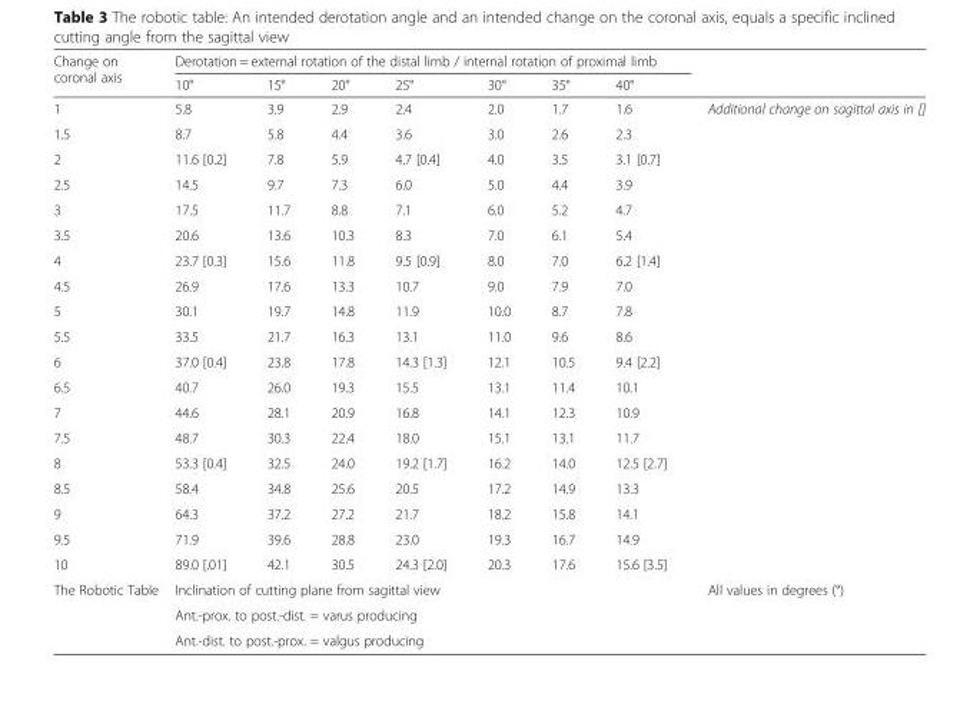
<table><thead><tr><td rowspan="2">Change on coronal axis</td><td colspan="7">Derotation = external rotation of the distal limb / internal rotation of proximal limb</td><td rowspan="2"></td></tr><tr><td>10°</td><td>15°</td><td>20°</td><td>25°</td><td>30°</td><td>35°</td><td>40°</td></tr></thead><tbody><tr><td>1</td><td>5.8</td><td>3.9</td><td>2.9</td><td>2.4</td><td>2.0</td><td>1.7</td><td>1.6</td><td rowspan="19">Additional change on sagittal axis in []</td></tr><tr><td>1.5</td><td>8.7</td><td>5.8</td><td>4.4</td><td>3.6</td><td>3.0</td><td>2.6</td><td>2.3</td></tr><tr><td>2</td><td>11.6 [0.2]</td><td>7.8</td><td>5.9</td><td>4.7 [0.4]</td><td>4.0</td><td>3.5</td><td>3.1 [0.7]</td></tr><tr><td>2.5</td><td>14.5</td><td>9.7</td><td>7.3</td><td>6.0</td><td>5.0</td><td>4.4</td><td>3.9</td></tr><tr><td>3</td><td>17.5</td><td>11.7</td><td>8.8</td><td>7.1</td><td>6.0</td><td>5.2</td><td>4.7</td></tr><tr><td>3.5</td><td>20.6</td><td>13.6</td><td>10.3</td><td>8.3</td><td>7.0</td><td>6.1</td><td>5.4</td></tr><tr><td>4</td><td>23.7 [0.3]</td><td>15.6</td><td>11.8</td><td>9.5 [0.9]</td><td>8.0</td><td>7.0</td><td>6.2 [1.4]</td></tr><tr><td>4.5</td><td>26.9</td><td>17.6</td><td>13.3</td><td>10.7</td><td>9.0</td><td>7.9</td><td>7.0</td></tr><tr><td>5</td><td>30.1</td><td>19.7</td><td>14.8</td><td>11.9</td><td>10.0</td><td>8.7</td><td>7.8</td></tr><tr><td>5.5</td><td>33.5</td><td>21.7</td><td>16.3</td><td>13.1</td><td>11.0</td><td>9.6</td><td>8.6</td></tr><tr><td>6</td><td>37.0 [0.4]</td><td>23.8</td><td>17.8</td><td>14.3 [1.3]</td><td>12.1</td><td>10.5</td><td>9.4 [2.2]</td></tr><tr><td>6.5</td><td>40.7</td><td>26.0</td><td>19.3</td><td>15.5</td><td>13.1</td><td>11.4</td><td>10.1</td></tr><tr><td>7</td><td>44.6</td><td>28.1</td><td>20.9</td><td>16.8</td><td>14.1</td><td>12.3</td><td>10.9</td></tr><tr><td>7.5</td><td>48.7</td><td>30.3</td><td>22.4</td><td>18.0</td><td>15.1</td><td>13.1</td><td>11.7</td></tr><tr><td>8</td><td>53.3 [0.4]</td><td>32.5</td><td>24.0</td><td>19.2 [1.7]</td><td>16.2</td><td>14.0</td><td>12.5 [2.7]</td></tr><tr><td>8.5</td><td>58.4</td><td>34.8</td><td>25.6</td><td>20.5</td><td>17.2</td><td>14.9</td><td>13.3</td></tr><tr><td>9</td><td>64.3</td><td>37.2</td><td>27.2</td><td>21.7</td><td>18.2</td><td>15.8</td><td>14.1</td></tr><tr><td>9.5</td><td>71.9</td><td>39.6</td><td>28.8</td><td>23.0</td><td>19.3</td><td>16.7</td><td>14.9</td></tr><tr><td>10</td><td>89.0 [.01]</td><td>42.1</td><td>30.5</td><td>24.3 [2.0]</td><td>20.3</td><td>17.6</td><td>15.6 [3.5]</td></tr><tr><td rowspan="3">The Robotic Table</td><td colspan="4">Inclination of cutting plane from sagittal view</td><td></td><td></td><td></td><td rowspan="3">All values in degrees (°)</td></tr><tr><td colspan="4">Ant.-prox. to post.-dist. = varus producing</td><td></td><td></td><td></td></tr><tr><td colspan="4">Ant.-dist. to post.-prox. = valgus producing</td><td></td><td></td><td></td></tr></tbody></table>